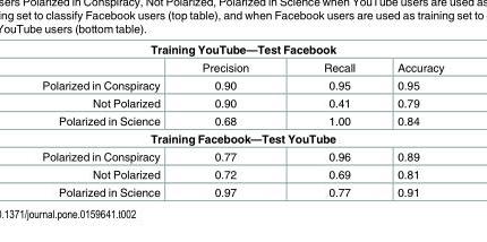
<table><tbody><tr><td colspan="4">Training YouTube—Test Facebook</td></tr><tr><td></td><td>Precision</td><td>Recall</td><td>Accuracy</td></tr><tr><td>Polarized in Conspiracy</td><td>0.90</td><td>0.95</td><td>0.95</td></tr><tr><td>Not Polarized</td><td>0.90</td><td>0.41</td><td>0.79</td></tr><tr><td>Polarized in Science</td><td>0.68</td><td>1.00</td><td>0.84</td></tr><tr><td colspan="4">Training Facebook—Test YouTube</td></tr><tr><td>Polarized in Conspiracy</td><td>0.77</td><td>0.96</td><td>0.89</td></tr><tr><td>Not Polarized</td><td>0.72</td><td>0.69</td><td>0.81</td></tr><tr><td>Polarized in Science</td><td>0.97</td><td>0.77</td><td>0.91</td></tr></tbody></table>